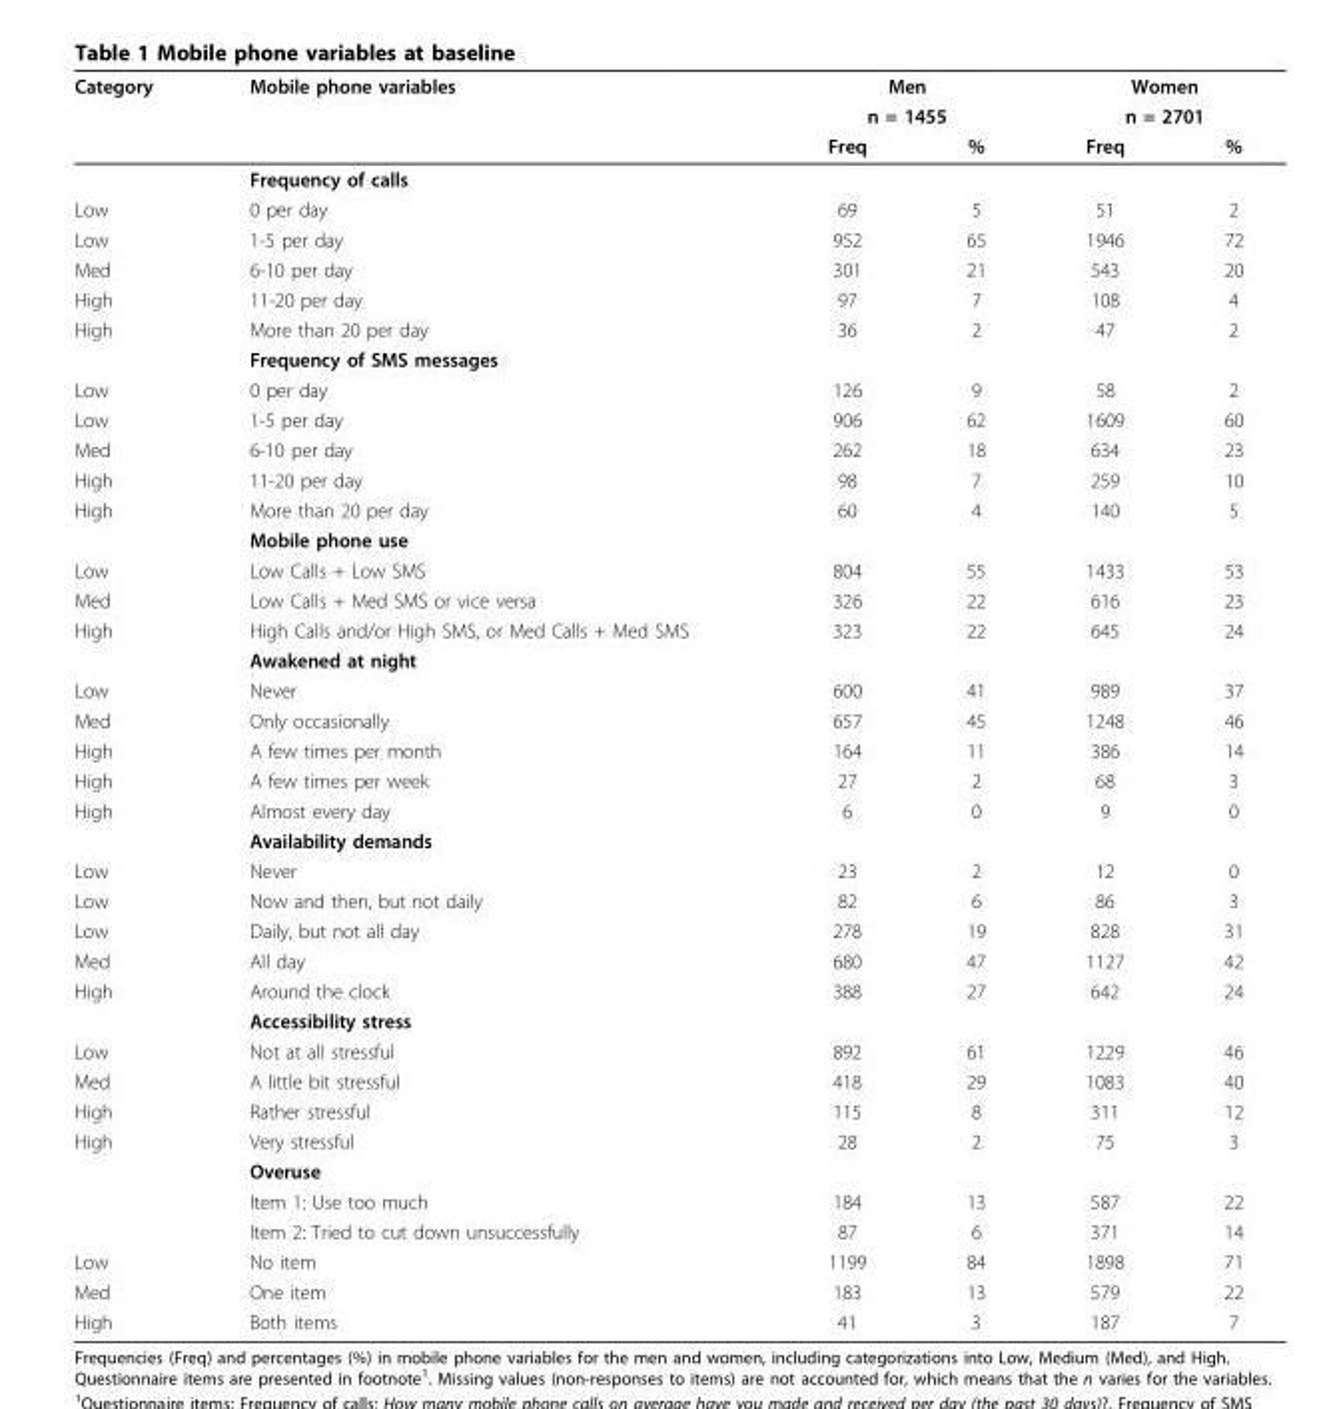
<table><thead><tr><td rowspan="3">Category</td><td rowspan="3">Mobile phone variables</td><td rowspan="2" colspan="2">Men n = 1455</td><td rowspan="2" colspan="2">Women n = 2701</td></tr><tr></tr><tr><td>Freq</td><td>%</td><td>Freq</td><td>%</td></tr></thead><tbody><tr><td></td><td>Frequency of calls</td><td></td><td></td><td></td><td></td></tr><tr><td>Low</td><td>0 per day</td><td>69</td><td>5</td><td>51</td><td>2</td></tr><tr><td>Low</td><td>1-5 per day</td><td>952</td><td>65</td><td>1946</td><td>72</td></tr><tr><td>Med</td><td>6-10 per day</td><td>301</td><td>21</td><td>543</td><td>20</td></tr><tr><td>High</td><td>11-20 per day</td><td>97</td><td>7</td><td>108</td><td>4</td></tr><tr><td rowspan="2">High</td><td>More than 20 per day</td><td>36</td><td>2</td><td>47</td><td>2</td></tr><tr><td>Frequency of SMS messages</td><td></td><td></td><td></td><td></td></tr><tr><td>Low</td><td>0 per day</td><td>126</td><td>9</td><td>58</td><td>2</td></tr><tr><td>Low</td><td>1-5 per day</td><td>906</td><td>62</td><td>1609</td><td>60</td></tr><tr><td>Med</td><td>6-10 per day</td><td>262</td><td>18</td><td>634</td><td>23</td></tr><tr><td>High</td><td>11-20 per day</td><td>98</td><td>7</td><td>259</td><td>10</td></tr><tr><td rowspan="2">High</td><td>More than 20 per day</td><td>60</td><td>4</td><td>140</td><td>5</td></tr><tr><td>Mobile phone use</td><td></td><td></td><td></td><td></td></tr><tr><td>Low</td><td>Low Calls + Low SMS</td><td>804</td><td>55</td><td>1433</td><td>53</td></tr><tr><td>Med</td><td>Low Calls + Med SMS or vice versa</td><td>326</td><td>22</td><td>616</td><td>23</td></tr><tr><td rowspan="2">High</td><td>High Calls and/or High SMS, or Med Calls + Med SMS</td><td>323</td><td>22</td><td>645</td><td>24</td></tr><tr><td>Awakened at night</td><td></td><td></td><td></td><td></td></tr><tr><td>Low</td><td>Never</td><td>600</td><td>41</td><td>989</td><td>37</td></tr><tr><td>Med</td><td>Only occasionally</td><td>657</td><td>45</td><td>1248</td><td>46</td></tr><tr><td>High</td><td>A few times per month</td><td>164</td><td>11</td><td>386</td><td>14</td></tr><tr><td>High</td><td>A few times per week</td><td>27</td><td>2</td><td>68</td><td>3</td></tr><tr><td rowspan="2">High</td><td>Almost every day</td><td>6</td><td>0</td><td>9</td><td>0</td></tr><tr><td>Availability demands</td><td></td><td></td><td></td><td></td></tr><tr><td>Low</td><td>Never</td><td>23</td><td>2</td><td>12</td><td>0</td></tr><tr><td>Low</td><td>Now and then, but not daily</td><td>82</td><td>6</td><td>86</td><td>3</td></tr><tr><td>Low</td><td>Daily, but not all day</td><td>278</td><td>19</td><td>828</td><td>31</td></tr><tr><td>Med</td><td>All day</td><td>680</td><td>47</td><td>1127</td><td>42</td></tr><tr><td rowspan="2">High</td><td>Around the clock</td><td>388</td><td>27</td><td>642</td><td>24</td></tr><tr><td>Accessibility stress</td><td></td><td></td><td></td><td></td></tr><tr><td>Low</td><td>Not at all stressful</td><td>892</td><td>61</td><td>1229</td><td>46</td></tr><tr><td>Med</td><td>A little bit stressful</td><td>418</td><td>29</td><td>1083</td><td>40</td></tr><tr><td>High</td><td>Rather stressful</td><td>115</td><td>8</td><td>311</td><td>12</td></tr><tr><td rowspan="4">High</td><td>Very stressful</td><td>28</td><td>2</td><td>75</td><td>3</td></tr><tr><td>Overuse</td><td></td><td></td><td></td><td></td></tr><tr><td>Item 1: Use too much</td><td>184</td><td>13</td><td>587</td><td>22</td></tr><tr><td>Item 2: Tried to cut down unsuccessfully</td><td>87</td><td>6</td><td>371</td><td>14</td></tr><tr><td>Low</td><td>No item</td><td>1199</td><td>84</td><td>1898</td><td>71</td></tr><tr><td>Med</td><td>One item</td><td>183</td><td>13</td><td>579</td><td>22</td></tr><tr><td>High</td><td>Both items</td><td>41</td><td>3</td><td>187</td><td>7</td></tr></tbody></table>